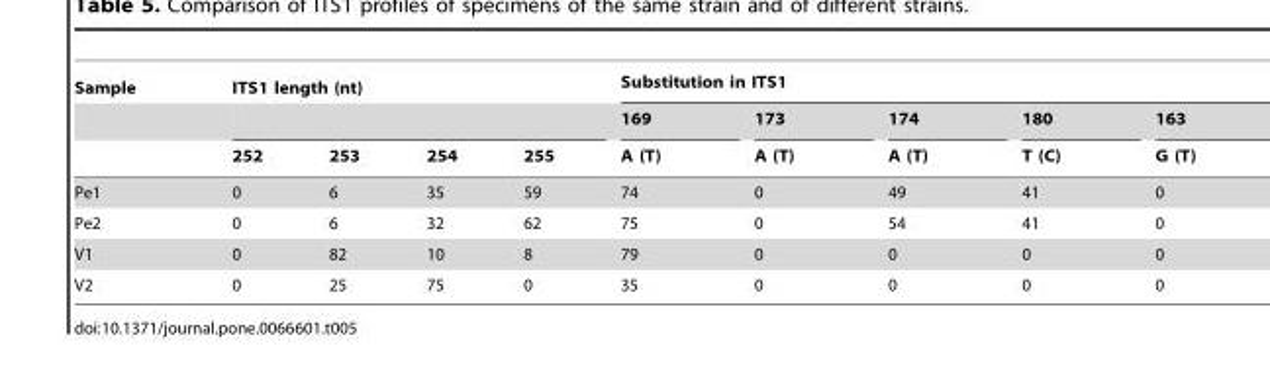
<table><thead><tr><td rowspan="3">Sample</td><td colspan="4">ITS1 length (nt)</td><td colspan="5">Substitution in ITS1</td></tr><tr><td rowspan="2">252</td><td rowspan="2">253</td><td rowspan="2">254</td><td rowspan="2">255</td><td rowspan="2">169 A (T)</td><td rowspan="2">173 A (T)</td><td rowspan="2">174 A (T)</td><td rowspan="2">180 T (C)</td><td rowspan="2">163 G (T)</td></tr><tr></tr></thead><tbody><tr><td>Pe1</td><td>0</td><td>6</td><td>35</td><td>59</td><td>74</td><td>0</td><td>49</td><td>41</td><td>0</td></tr><tr><td>Pe2</td><td>0</td><td>6</td><td>32</td><td>62</td><td>75</td><td>0</td><td>54</td><td>41</td><td>0</td></tr><tr><td>V1</td><td>0</td><td>82</td><td>10</td><td>8</td><td>79</td><td>0</td><td>0</td><td>0</td><td>0</td></tr><tr><td>V2</td><td>0</td><td>25</td><td>75</td><td>0</td><td>35</td><td>0</td><td>0</td><td>0</td><td>0</td></tr></tbody></table>